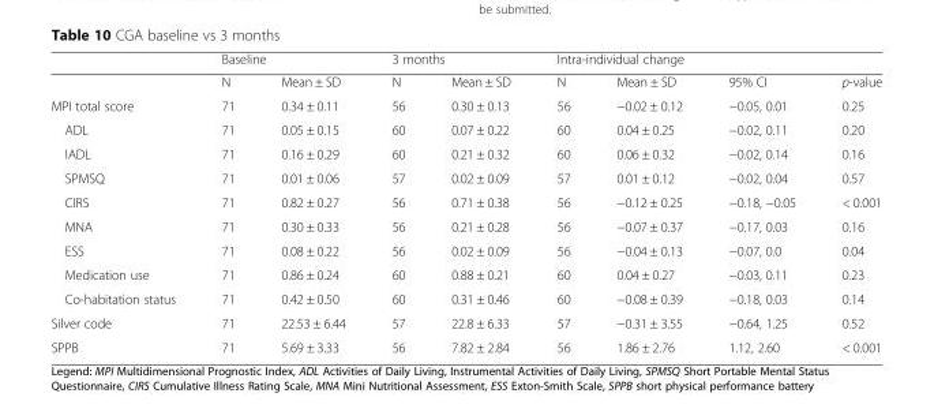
<table><thead><tr><td rowspan="2"></td><td colspan="2">Baseline</td><td colspan="2">3 months</td><td colspan="3">Intra-individual change</td><td rowspan="2">p-value</td></tr><tr><td>N</td><td>Mean ± SD</td><td>N</td><td>Mean ± SD</td><td>N</td><td>Mean ± SD</td><td>95% CI</td></tr></thead><tbody><tr><td>MPI total score</td><td>71</td><td>0.34 ± 0.11</td><td>56</td><td>0.30 ± 0.13</td><td>56</td><td>−0.02 ± 0.12</td><td>−0.05, 0.01</td><td>0.25</td></tr><tr><td>ADL</td><td>71</td><td>0.05 ± 0.15</td><td>60</td><td>0.07 ± 0.22</td><td>60</td><td>0.04 ± 0.25</td><td>−0.02, 0.11</td><td>0.20</td></tr><tr><td>IADL</td><td>71</td><td>0.16 ± 0.29</td><td>60</td><td>0.21 ± 0.32</td><td>60</td><td>0.06 ± 0.32</td><td>−0.02, 0.14</td><td>0.16</td></tr><tr><td>SPMSQ</td><td>71</td><td>0.01 ± 0.06</td><td>57</td><td>0.02 ± 0.09</td><td>57</td><td>0.01 ± 0.12</td><td>−0.02, 0.04</td><td>0.57</td></tr><tr><td>CIRS</td><td>71</td><td>0.82 ± 0.27</td><td>56</td><td>0.71 ± 0.38</td><td>56</td><td>−0.12 ± 0.25</td><td>−0.18, −0.05</td><td>&lt; 0.001</td></tr><tr><td>MNA</td><td>71</td><td>0.30 ± 0.33</td><td>56</td><td>0.21 ± 0.28</td><td>56</td><td>−0.07 ± 0.37</td><td>−0.17, 0.03</td><td>0.16</td></tr><tr><td>ESS</td><td>71</td><td>0.08 ± 0.22</td><td>56</td><td>0.02 ± 0.09</td><td>56</td><td>−0.04 ± 0.13</td><td>−0.07, 0.0</td><td>0.04</td></tr><tr><td>Medication use</td><td>71</td><td>0.86 ± 0.24</td><td>60</td><td>0.88 ± 0.21</td><td>60</td><td>0.04 ± 0.27</td><td>−0.03, 0.11</td><td>0.23</td></tr><tr><td>Co-habitation status</td><td>71</td><td>0.42 ± 0.50</td><td>60</td><td>0.31 ± 0.46</td><td>60</td><td>−0.08 ± 0.39</td><td>−0.18, 0.03</td><td>0.14</td></tr><tr><td>Silver code</td><td>71</td><td>22.53 ± 6.44</td><td>57</td><td>22.8 ± 6.33</td><td>57</td><td>−0.31 ± 3.55</td><td>−0.64, 1.25</td><td>0.52</td></tr><tr><td>SPPB</td><td>71</td><td>5.69 ± 3.33</td><td>56</td><td>7.82 ± 2.84</td><td>56</td><td>1.86 ± 2.76</td><td>1.12, 2.60</td><td>&lt; 0.001</td></tr></tbody></table>